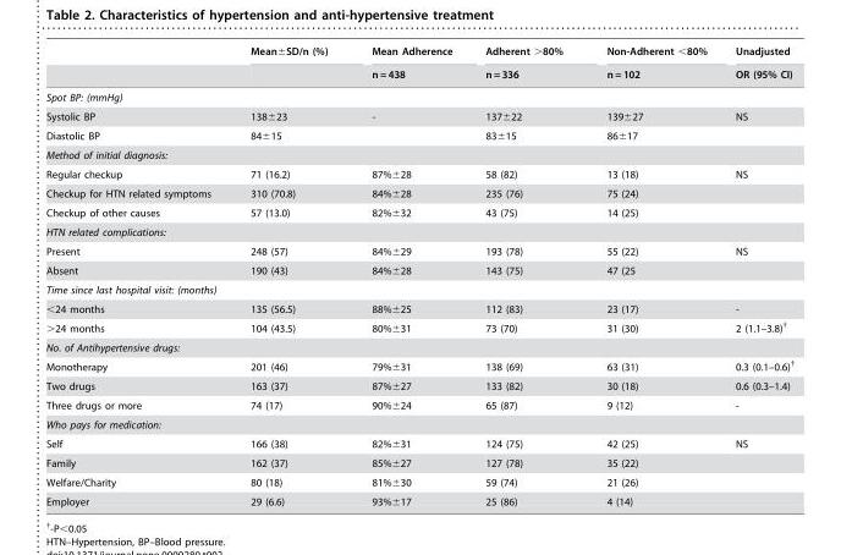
<table><thead><tr><td rowspan="2"></td><td rowspan="2">Mean±SD/n (%)</td><td rowspan="2">Mean Adherence n = 438</td><td rowspan="2">Adherent &gt;80% n = 336</td><td rowspan="2">Non-Adherent &lt;80% n = 102</td><td rowspan="2">Unadjusted OR (95% CI)</td></tr><tr></tr></thead><tbody><tr><td colspan="6">Spot BP: (mmHg)</td></tr><tr><td>Systolic BP</td><td>138±23</td><td>-</td><td>137±22</td><td>139±27</td><td>NS</td></tr><tr><td>Diastolic BP</td><td>84±15</td><td></td><td>83±15</td><td>86±17</td><td></td></tr><tr><td colspan="6">Method of initial diagnosis:</td></tr><tr><td>Regular checkup</td><td>71 (16.2)</td><td>87%±28</td><td>58 (82)</td><td>13 (18)</td><td>NS</td></tr><tr><td>Checkup for HTN related symptoms</td><td>310 (70.8)</td><td>84%±28</td><td>235 (76)</td><td>75 (24)</td><td></td></tr><tr><td>Checkup of other causes</td><td>57 (13.0)</td><td>82%±32</td><td>43 (75)</td><td>14 (25)</td><td></td></tr><tr><td colspan="6">HTN related complications:</td></tr><tr><td>Present</td><td>248 (57)</td><td>84%±29</td><td>193 (78)</td><td>55 (22)</td><td>NS</td></tr><tr><td>Absent</td><td>190 (43)</td><td>84%±28</td><td>143 (75)</td><td>47 (25</td><td></td></tr><tr><td colspan="6">Time since last hospital visit: (months)</td></tr><tr><td>&lt;24 months</td><td>135 (56.5)</td><td>88%±25</td><td>112 (83)</td><td>23 (17)</td><td>-</td></tr><tr><td>&gt;24 months</td><td>104 (43.5)</td><td>80%±31</td><td>73 (70)</td><td>31 (30)</td><td>2 (1.1–3.8)†</td></tr><tr><td colspan="6">No. of Antihypertensive drugs:</td></tr><tr><td>Monotherapy</td><td>201 (46)</td><td>79%±31</td><td>138 (69)</td><td>63 (31)</td><td>0.3 (0.1–0.6)†</td></tr><tr><td>Two drugs</td><td>163 (37)</td><td>87%±27</td><td>133 (82)</td><td>30 (18)</td><td>0.6 (0.3–1.4)</td></tr><tr><td>Three drugs or more</td><td>74 (17)</td><td>90%±24</td><td>65 (87)</td><td>9 (12)</td><td>-</td></tr><tr><td colspan="6">Who pays for medication:</td></tr><tr><td>Self</td><td>166 (38)</td><td>82%±31</td><td>124 (75)</td><td>42 (25)</td><td>NS</td></tr><tr><td>Family</td><td>162 (37)</td><td>85%±27</td><td>127 (78)</td><td>35 (22)</td><td></td></tr><tr><td>Welfare/Charity</td><td>80 (18)</td><td>81%±30</td><td>59 (74)</td><td>21 (26)</td><td></td></tr><tr><td>Employer</td><td>29 (6.6)</td><td>93%±17</td><td>25 (86)</td><td>4 (14)</td><td></td></tr></tbody></table>